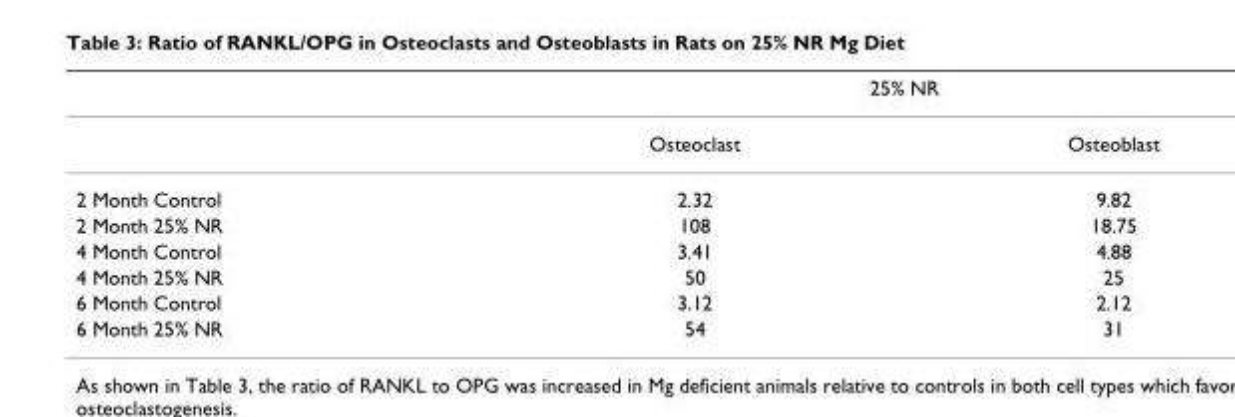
<table><thead><tr><td rowspan="2"></td><td colspan="2">25% NR</td></tr><tr><td>Osteoclast</td><td>Osteoblast</td></tr></thead><tbody><tr><td>2 Month Control</td><td>2.32</td><td>9.82</td></tr><tr><td>2 Month 25% NR</td><td>108</td><td>18.75</td></tr><tr><td>4 Month Control</td><td>3.41</td><td>4.88</td></tr><tr><td>4 Month 25% NR</td><td>50</td><td>25</td></tr><tr><td>6 Month Control</td><td>3.12</td><td>2.12</td></tr><tr><td>6 Month 25% NR</td><td>54</td><td>31</td></tr></tbody></table>